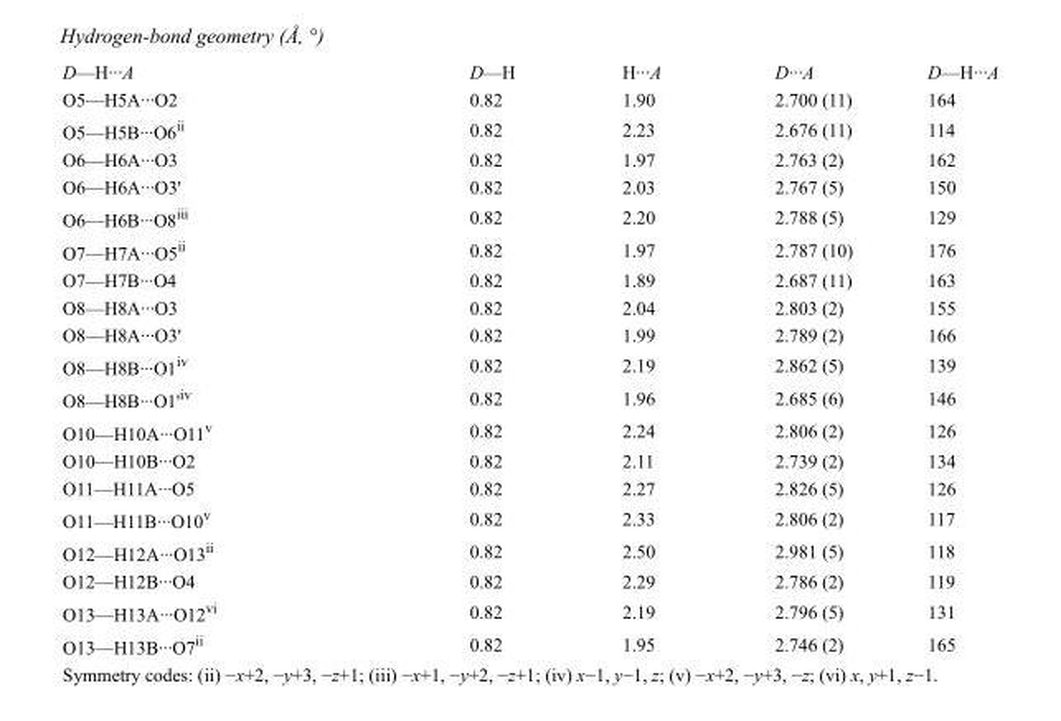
<table><tbody><tr><td>D—H···A</td><td>D—H</td><td>H···A</td><td>D···A</td><td>D—H···A</td></tr><tr><td>O5—H5A···O2</td><td>0.82</td><td>1.90</td><td>2.700 (11)</td><td>164</td></tr><tr><td>O5—H5B···O6<sup>ii</sup></td><td>0.82</td><td>2.23</td><td>2.676 (11)</td><td>114</td></tr><tr><td>O6—H6A···O3</td><td>0.82</td><td>1.97</td><td>2.763 (2)</td><td>162</td></tr><tr><td>O6—H6A···O3&#x27;</td><td>0.82</td><td>2.03</td><td>2.767 (5)</td><td>150</td></tr><tr><td>O6—H6B···O8<sup>iii</sup></td><td>0.82</td><td>2.20</td><td>2.788 (5)</td><td>129</td></tr><tr><td>O7—H7A···O5<sup>ii</sup></td><td>0.82</td><td>1.97</td><td>2.787 (10)</td><td>176</td></tr><tr><td>O7—H7B···O4</td><td>0.82</td><td>1.89</td><td>2.687 (11)</td><td>163</td></tr><tr><td>O8—H8A···O3</td><td>0.82</td><td>2.04</td><td>2.803 (2)</td><td>155</td></tr><tr><td>O8—H8A···O3&#x27;</td><td>0.82</td><td>1.99</td><td>2.789 (2)</td><td>166</td></tr><tr><td>O8—H8B···O1<sup>iv</sup></td><td>0.82</td><td>2.19</td><td>2.862 (5)</td><td>139</td></tr><tr><td>O8—H8B···O1&#x27;<sup>iv</sup></td><td>0.82</td><td>1.96</td><td>2.685 (6)</td><td>146</td></tr><tr><td>O10—H10A···O11<sup>v</sup></td><td>0.82</td><td>2.24</td><td>2.806 (2)</td><td>126</td></tr><tr><td>O10—H10B···O2</td><td>0.82</td><td>2.11</td><td>2.739 (2)</td><td>134</td></tr><tr><td>O11—H11A···O5</td><td>0.82</td><td>2.27</td><td>2.826 (5)</td><td>126</td></tr><tr><td>O11—H11B···O10<sup>v</sup></td><td>0.82</td><td>2.33</td><td>2.806 (2)</td><td>117</td></tr><tr><td>O12—H12A···O13<sup>ii</sup></td><td>0.82</td><td>2.50</td><td>2.981 (5)</td><td>118</td></tr><tr><td>O12—H12B···O4</td><td>0.82</td><td>2.29</td><td>2.786 (2)</td><td>119</td></tr><tr><td>O13—H13A···O12<sup>vi</sup></td><td>0.82</td><td>2.19</td><td>2.796 (5)</td><td>131</td></tr><tr><td>O13—H13B···O7<sup>ii</sup></td><td>0.82</td><td>1.95</td><td>2.746 (2)</td><td>165</td></tr></tbody></table>